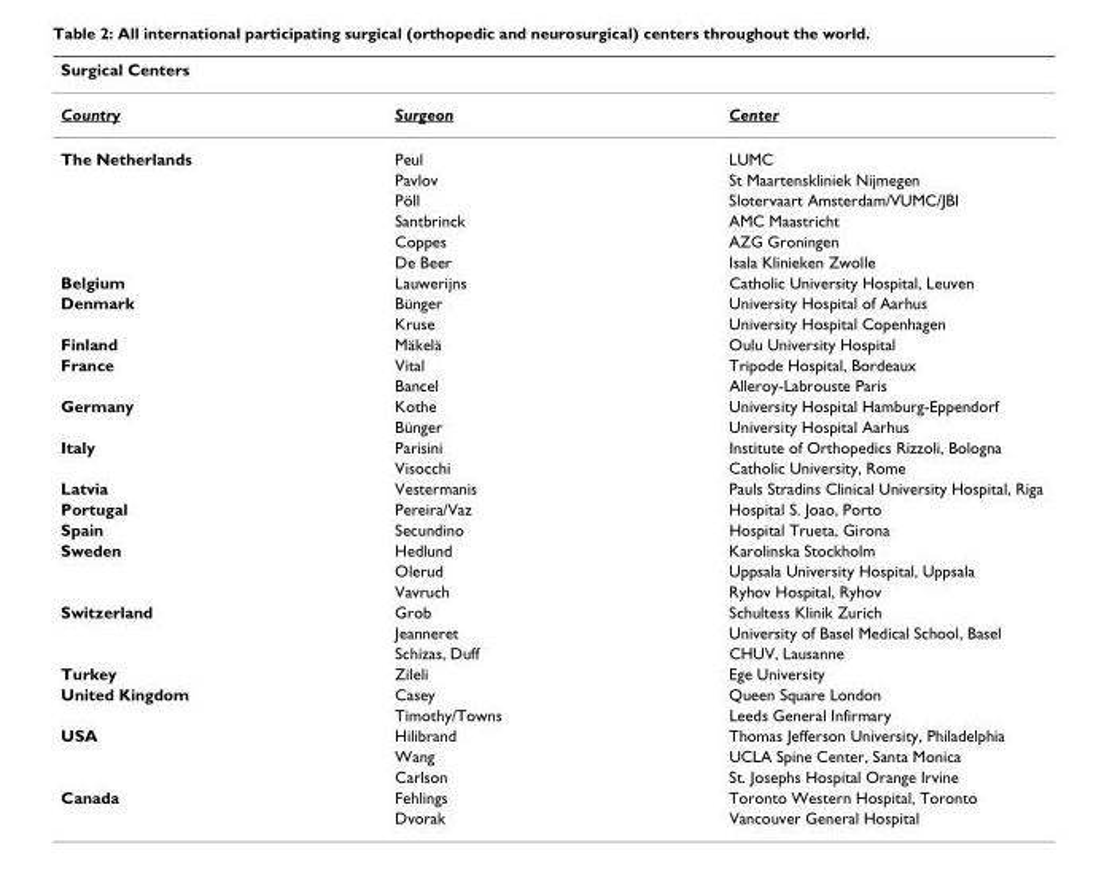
<table><thead><tr><td>Surgical Centers</td><td></td><td></td></tr></thead><tbody><tr><td>Country</td><td>Surgeon</td><td>Center</td></tr><tr><td rowspan="6">The Netherlands</td><td>Peul</td><td>LUMC</td></tr><tr><td>Pavlov</td><td>St Maartenskliniek Nijmegen</td></tr><tr><td>Pöll</td><td>Slotervaart Amsterdam/VUMC/JBI</td></tr><tr><td>Santbrinck</td><td>AMC Maastricht</td></tr><tr><td>Coppes</td><td>AZG Groningen</td></tr><tr><td>De Beer</td><td>Isala Klinieken Zwolle</td></tr><tr><td>Belgium</td><td>Lauwerijns</td><td>Catholic University Hospital, Leuven</td></tr><tr><td rowspan="2">Denmark</td><td>Bünger</td><td>University Hospital of Aarhus</td></tr><tr><td>Kruse</td><td>University Hospital Copenhagen</td></tr><tr><td>Finland</td><td>Mäkelä</td><td>Oulu University Hospital</td></tr><tr><td rowspan="2">France</td><td>Vital</td><td>Tripode Hospital, Bordeaux</td></tr><tr><td>Bancel</td><td>Alleroy-Labrouste Paris</td></tr><tr><td rowspan="2">Germany</td><td>Kothe</td><td>University Hospital Hamburg-Eppendorf</td></tr><tr><td>Bünger</td><td>University Hospital Aarhus</td></tr><tr><td rowspan="2">Italy</td><td>Parisini</td><td>Institute of Orthopedics Rizzoli, Bologna</td></tr><tr><td>Visocchi</td><td>Catholic University, Rome</td></tr><tr><td>Latvia</td><td>Vestermanis</td><td>Pauls Stradins Clinical University Hospital, Riga</td></tr><tr><td>Portugal</td><td>Pereira/Vaz</td><td>Hospital S. Joao, Porto</td></tr><tr><td>Spain</td><td>Secundino</td><td>Hospital Trueta, Girona</td></tr><tr><td rowspan="3">Sweden</td><td>Hedlund</td><td>Karolinska Stockholm</td></tr><tr><td>Olerud</td><td>Uppsala University Hospital, Uppsala</td></tr><tr><td>Vavruch</td><td>Ryhov Hospital, Ryhov</td></tr><tr><td rowspan="3">Switzerland</td><td>Grob</td><td>Schultess Klinik Zurich</td></tr><tr><td>Jeanneret</td><td>University of Basel Medical School, Basel</td></tr><tr><td>Schizas, Duff</td><td>CHUV, Lausanne</td></tr><tr><td>Turkey</td><td>Zileli</td><td>Ege University</td></tr><tr><td rowspan="2">United Kingdom</td><td>Casey</td><td>Queen Square London</td></tr><tr><td>Timothy/Towns</td><td>Leeds General Infirmary</td></tr><tr><td rowspan="3">USA</td><td>Hilibrand</td><td>Thomas Jefferson University, Philadelphia</td></tr><tr><td>Wang</td><td>UCLA Spine Center, Santa Monica</td></tr><tr><td>Carlson</td><td>St. Josephs Hospital Orange Irvine</td></tr><tr><td rowspan="2">Canada</td><td>Fehlings</td><td>Toronto Western Hospital, Toronto</td></tr><tr><td>Dvorak</td><td>Vancouver General Hospital</td></tr></tbody></table>